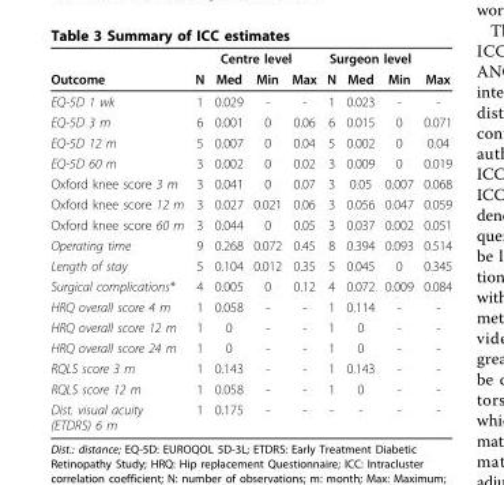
<table><thead><tr><td rowspan="2">Outcome</td><td colspan="4">Centre level</td><td colspan="3">Surgeon level</td><td rowspan="2">Max</td></tr><tr><td>N</td><td>Med</td><td>Min</td><td>Max</td><td>N</td><td>Med</td><td>Min</td></tr></thead><tbody><tr><td>EQ-5D 1 wk</td><td>1</td><td>0.029</td><td>-</td><td>-</td><td>1</td><td>0.023</td><td>-</td><td>-</td></tr><tr><td>EQ-5D 3 m</td><td>6</td><td>0.001</td><td>0</td><td>0.06</td><td>6</td><td>0.015</td><td>0</td><td>0.071</td></tr><tr><td>EQ-5D 12 m</td><td>5</td><td>0.007</td><td>0</td><td>0.04</td><td>5</td><td>0.002</td><td>0</td><td>0.04</td></tr><tr><td>EQ-5D 60 m</td><td>3</td><td>0.002</td><td>0</td><td>0.02</td><td>3</td><td>0.009</td><td>0</td><td>0.019</td></tr><tr><td>Oxford knee score 3 m</td><td>3</td><td>0.041</td><td>0</td><td>0.07</td><td>3</td><td>0.05</td><td>0.007</td><td>0.068</td></tr><tr><td>Oxford knee score 12 m</td><td>3</td><td>0.027</td><td>0.021</td><td>0.06</td><td>3</td><td>0.056</td><td>0.047</td><td>0.059</td></tr><tr><td>Oxford knee score 60 m</td><td>3</td><td>0.044</td><td>0</td><td>0.05</td><td>3</td><td>0.037</td><td>0.002</td><td>0.051</td></tr><tr><td>Operating time</td><td>9</td><td>0.268</td><td>0.072</td><td>0.45</td><td>8</td><td>0.394</td><td>0.093</td><td>0.514</td></tr><tr><td>Length of stay</td><td>5</td><td>0.104</td><td>0.012</td><td>0.35</td><td>5</td><td>0.045</td><td>0</td><td>0.345</td></tr><tr><td>Surgical complications*</td><td>4</td><td>0.005</td><td>0</td><td>0.12</td><td>4</td><td>0.072</td><td>0.009</td><td>0.084</td></tr><tr><td>HRQ overall score 4 m</td><td>1</td><td>0.058</td><td>-</td><td>-</td><td>1</td><td>0.114</td><td>-</td><td>-</td></tr><tr><td>HRQ overall score 12 m</td><td>1</td><td>0</td><td>-</td><td>-</td><td>1</td><td>0</td><td>-</td><td>-</td></tr><tr><td>HRQ overall score 24 m</td><td>1</td><td>0</td><td>-</td><td>-</td><td>1</td><td>0</td><td>-</td><td>-</td></tr><tr><td>RQLS score 3 m</td><td>1</td><td>0.143</td><td>-</td><td>-</td><td>1</td><td>0.143</td><td>-</td><td>-</td></tr><tr><td>RQLS score 12 m</td><td>1</td><td>0.058</td><td>-</td><td>-</td><td>1</td><td>0</td><td>-</td><td>-</td></tr><tr><td>Dist. visual acuity (ETDRS) 6 m</td><td>1</td><td>0.175</td><td>-</td><td>-</td><td>-</td><td>-</td><td>-</td><td>-</td></tr></tbody></table>